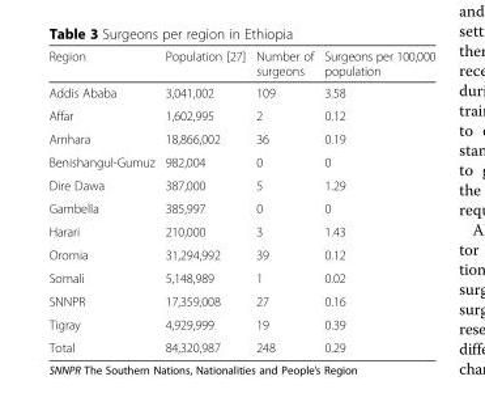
<table><thead><tr><td>Region</td><td>Population [27]</td><td>Number of surgeons</td><td>Surgeons per 100,000 population</td></tr></thead><tbody><tr><td>Addis Ababa</td><td>3,041,002</td><td>109</td><td>3.58</td></tr><tr><td>Affar</td><td>1,602,995</td><td>2</td><td>0.12</td></tr><tr><td>Amhara</td><td>18,866,002</td><td>36</td><td>0.19</td></tr><tr><td>Benishangul-Gumuz</td><td>982,004</td><td>0</td><td>0</td></tr><tr><td>Dire Dawa</td><td>387,000</td><td>5</td><td>1.29</td></tr><tr><td>Gambella</td><td>385,997</td><td>0</td><td>0</td></tr><tr><td>Harari</td><td>210,000</td><td>3</td><td>1.43</td></tr><tr><td>Oromia</td><td>31,294,992</td><td>39</td><td>0.12</td></tr><tr><td>Somali</td><td>5,148,989</td><td>1</td><td>0.02</td></tr><tr><td>SNNPR</td><td>17,359,008</td><td>27</td><td>0.16</td></tr><tr><td>Tigray</td><td>4,929,999</td><td>19</td><td>0.39</td></tr><tr><td>Total</td><td>84,320,987</td><td>248</td><td>0.29</td></tr></tbody></table>